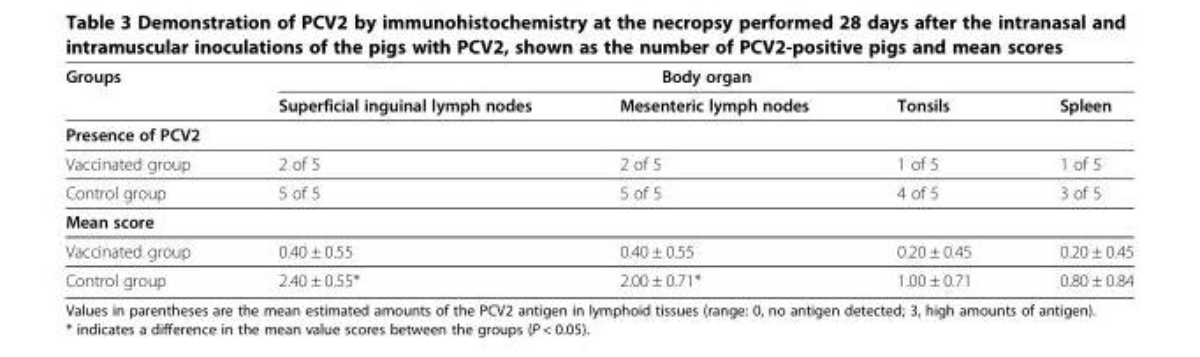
<table><thead><tr><td rowspan="2">Groups</td><td rowspan="2">Superficial inguinal lymph nodes</td><td rowspan="2">Body organ Mesenteric lymph nodes</td><td rowspan="2">Tonsils</td><td rowspan="2">Spleen</td></tr><tr></tr></thead><tbody><tr><td colspan="5">Presence of PCV2</td></tr><tr><td>Vaccinated group</td><td>2 of 5</td><td>2 of 5</td><td>1 of 5</td><td>1 of 5</td></tr><tr><td>Control group</td><td>5 of 5</td><td>5 of 5</td><td>4 of 5</td><td>3 of 5</td></tr><tr><td colspan="5">Mean score</td></tr><tr><td>Vaccinated group</td><td>0.40 ± 0.55</td><td>0.40 ± 0.55</td><td>0.20 ± 0.45</td><td>0.20 ± 0.45</td></tr><tr><td>Control group</td><td>2.40 ± 0.55*</td><td>2.00 ± 0.71*</td><td>1.00 ± 0.71</td><td>0.80 ± 0.84</td></tr></tbody></table>